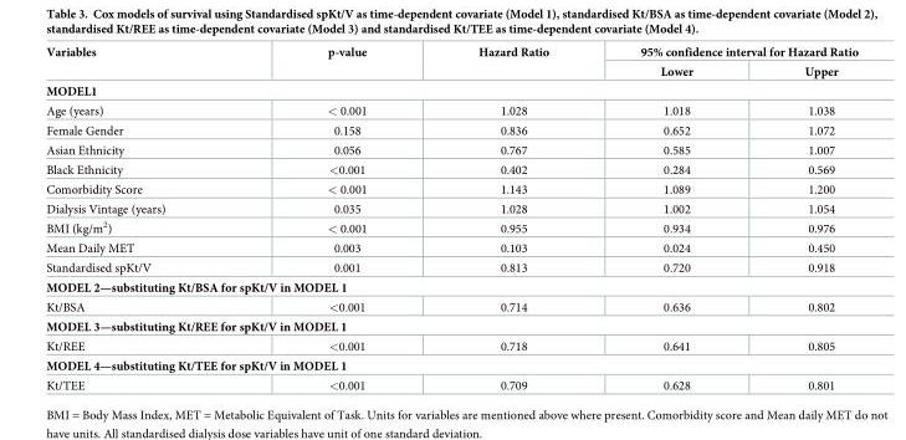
<table><thead><tr><td rowspan="2">Variables</td><td rowspan="2">p-value</td><td rowspan="2">Hazard Ratio</td><td colspan="2">95% confidence interval for Hazard Ratio</td></tr><tr><td>Lower</td><td>Upper</td></tr></thead><tbody><tr><td colspan="5">MODEL1</td></tr><tr><td>Age (years)</td><td>&lt; 0.001</td><td>1.028</td><td>1.018</td><td>1.038</td></tr><tr><td>Female Gender</td><td>0.158</td><td>0.836</td><td>0.652</td><td>1.072</td></tr><tr><td>Asian Ethnicity</td><td>0.056</td><td>0.767</td><td>0.585</td><td>1.007</td></tr><tr><td>Black Ethnicity</td><td>&lt;0.001</td><td>0.402</td><td>0.284</td><td>0.569</td></tr><tr><td>Comorbidity Score</td><td>&lt; 0.001</td><td>1.143</td><td>1.089</td><td>1.200</td></tr><tr><td>Dialysis Vintage (years)</td><td>0.035</td><td>1.028</td><td>1.002</td><td>1.054</td></tr><tr><td>BMI (kg/m<sup>2</sup>)</td><td>&lt; 0.001</td><td>0.955</td><td>0.934</td><td>0.976</td></tr><tr><td>Mean Daily MET</td><td>0.003</td><td>0.103</td><td>0.024</td><td>0.450</td></tr><tr><td>Standardised spKt/V</td><td>0.001</td><td>0.813</td><td>0.720</td><td>0.918</td></tr><tr><td colspan="5">MODEL 2—substituting Kt/BSA for spKt/V in MODEL 1</td></tr><tr><td>Kt/BSA</td><td>&lt;0.001</td><td>0.714</td><td>0.636</td><td>0.802</td></tr><tr><td colspan="5">MODEL 3—substituting Kt/REE for spKt/V in MODEL 1</td></tr><tr><td>Kt/REE</td><td>&lt;0.001</td><td>0.718</td><td>0.641</td><td>0.805</td></tr><tr><td colspan="5">MODEL 4—substituting Kt/TEE for spKt/V in MODEL 1</td></tr><tr><td>Kt/TEE</td><td>&lt;0.001</td><td>0.709</td><td>0.628</td><td>0.801</td></tr></tbody></table>